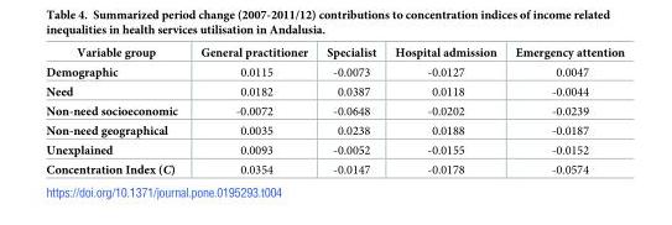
<table><thead><tr><td>Variable group</td><td>General practitioner</td><td>Specialist</td><td>Hospital admission</td><td>Emergency attention</td></tr></thead><tbody><tr><td>Demographic</td><td>0.0115</td><td>-0.0073</td><td>-0.0127</td><td>0.0047</td></tr><tr><td>Need</td><td>0.0182</td><td>0.0387</td><td>0.0118</td><td>-0.0044</td></tr><tr><td>Non-need socioeconomic</td><td>-0.0072</td><td>-0.0648</td><td>-0.0202</td><td>-0.0239</td></tr><tr><td>Non-need geographical</td><td>0.0035</td><td>0.0238</td><td>0.0188</td><td>-0.0187</td></tr><tr><td>Unexplained</td><td>0.0093</td><td>-0.0052</td><td>-0.0155</td><td>-0.0152</td></tr><tr><td>Concentration Index (C)</td><td>0.0354</td><td>-0.0147</td><td>-0.0178</td><td>-0.0574</td></tr></tbody></table>